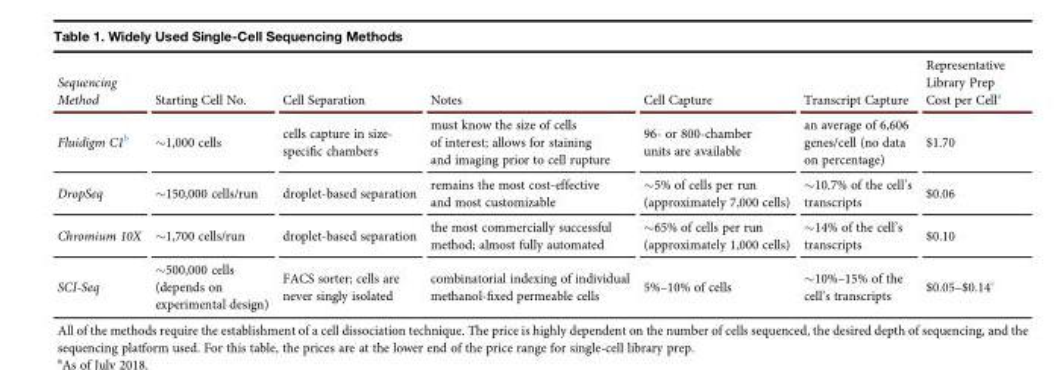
<table><thead><tr><td>Sequencing Method</td><td>Starting Cell No.</td><td>Cell Separation</td><td>Notes</td><td>Cell Capture</td><td>Transcript Capture</td><td>Representative Library Prep Cost per Cell<sup>a</sup></td></tr></thead><tbody><tr><td>Fluidigm C1<sup>b</sup></td><td>∼1,000 cells</td><td>cells capture in size- specific chambers</td><td>must know the size of cells of interest; allows for staining and imaging prior to cell rupture</td><td>96- or 800-chamber units are available</td><td>an average of 6,606 genes/cell (no data on percentage)</td><td>$1.70</td></tr><tr><td>DropSeq</td><td>∼150,000 cells/run</td><td>droplet-based separation</td><td>remains the most cost-effective and most customizable</td><td>∼5% of cells per run (approximately 7,000 cells)</td><td>∼10.7% of the cell’s transcripts</td><td>$0.06</td></tr><tr><td>Chromium 10X</td><td>∼1,700 cells/run</td><td>droplet-based separation</td><td>the most commercially successful method; almost fully automated</td><td>∼65% of cells per run (approximately 1,000 cells)</td><td>∼14% of the cell’s transcripts</td><td>$0.10</td></tr><tr><td>SCI-Seq</td><td>∼500,000 cells (depends on experimental design)</td><td>FACS sorter; cells are never singly isolated</td><td>combinatorial indexing of individual methanol-fixed permeable cells</td><td>5%–10% of cells</td><td>∼10%–15% of the cell’s transcripts</td><td>$0.05–$0.14<sup>c</sup></td></tr></tbody></table>